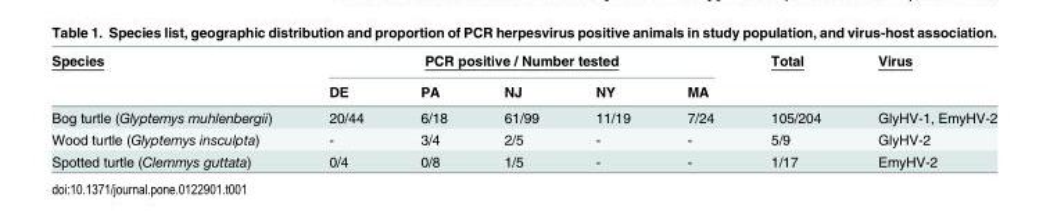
<table><thead><tr><td rowspan="2">Species</td><td colspan="5">PCR positive / Number tested</td><td rowspan="2">Total</td><td rowspan="2">Virus</td></tr><tr><td>DE</td><td>PA</td><td>NJ</td><td>NY</td><td>MA</td></tr></thead><tbody><tr><td>Bog turtle (Glyptemys muhlenbergii)</td><td>20/44</td><td>6/18</td><td>61/99</td><td>11/19</td><td>7/24</td><td>105/204</td><td>GlyHV-1, EmyHV-2</td></tr><tr><td>Wood turtle (Glyptemys insculpta)</td><td>-</td><td>3/4</td><td>2/5</td><td>-</td><td>-</td><td>5/9</td><td>GlyHV-2</td></tr><tr><td>Spotted turtle (Clemmys guttata)</td><td>0/4</td><td>0/8</td><td>1/5</td><td>-</td><td>-</td><td>1/17</td><td>EmyHV-2</td></tr></tbody></table>